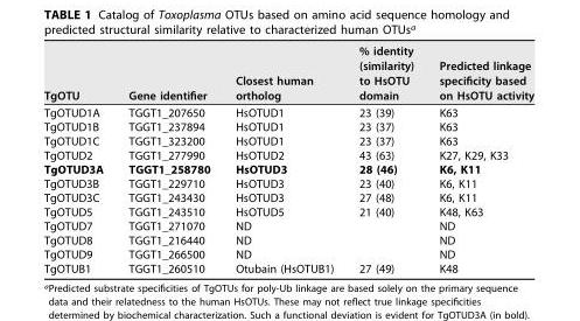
<table><thead><tr><td>TgOTU</td><td>Gene identifier</td><td>Closest human ortholog</td><td>% identity (similarity) to HsOTU domain</td><td>Predicted linkage specificity based on HsOTU activity</td></tr></thead><tbody><tr><td>TgOTUD1A</td><td>TGGT1_207650</td><td>HsOTUD1</td><td>23 (39)</td><td>K63</td></tr><tr><td>TgOTUD1B</td><td>TGGT1_237894</td><td>HsOTUD1</td><td>23 (37)</td><td>K63</td></tr><tr><td>TgOTUD1C</td><td>TGGT1_323200</td><td>HsOTUD1</td><td>23 (37)</td><td>K63</td></tr><tr><td>TgOTUD2</td><td>TGGT1_277990</td><td>HsOTUD2</td><td>43 (63)</td><td>K27, K29, K33</td></tr><tr><td>TgOTUD3A</td><td>TGGT1_258780</td><td>HsOTUD3</td><td>28 (46)</td><td>K6, K11</td></tr><tr><td>TgOTUD3B</td><td>TGGT1_229710</td><td>HsOTUD3</td><td>23 (40)</td><td>K6, K11</td></tr><tr><td>TgOTUD3C</td><td>TGGT1_243430</td><td>HsOTUD3</td><td>27 (48)</td><td>K6, K11</td></tr><tr><td>TgOTUD5</td><td>TGGT1_243510</td><td>HsOTUD5</td><td>21 (40)</td><td>K48, K63</td></tr><tr><td>TgOTUD7</td><td>TGGT1_271070</td><td>ND</td><td></td><td>ND</td></tr><tr><td>TgOTUD8</td><td>TGGT1_216440</td><td>ND</td><td></td><td>ND</td></tr><tr><td>TgOTUD9</td><td>TGGT1_266500</td><td>ND</td><td></td><td>ND</td></tr><tr><td>TgOTUB1</td><td>TGGT1_260510</td><td>Otubain (HsOTUB1)</td><td>27 (49)</td><td>K48</td></tr></tbody></table>